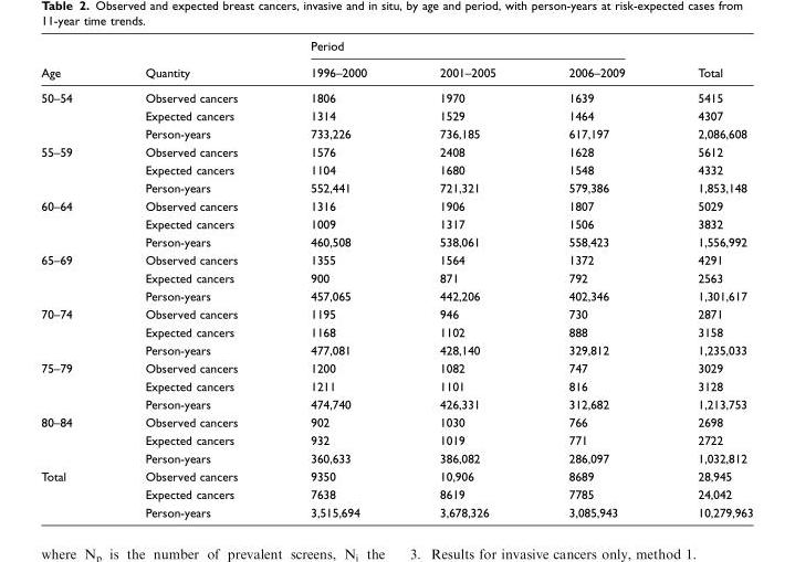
<table><thead><tr><td rowspan="2">Age</td><td rowspan="2">Quantity</td><td colspan="3">Period</td><td rowspan="2">Total</td></tr><tr><td>1996–2000</td><td>2001–2005</td><td>2006–2009</td></tr></thead><tbody><tr><td rowspan="3">50–54</td><td>Observed cancers</td><td>1806</td><td>1970</td><td>1639</td><td>5415</td></tr><tr><td>Expected cancers</td><td>1314</td><td>1529</td><td>1464</td><td>4307</td></tr><tr><td>Person-years</td><td>733,226</td><td>736,185</td><td>617,197</td><td>2,086,608</td></tr><tr><td rowspan="3">55–59</td><td>Observed cancers</td><td>1576</td><td>2408</td><td>1628</td><td>5612</td></tr><tr><td>Expected cancers</td><td>1104</td><td>1680</td><td>1548</td><td>4332</td></tr><tr><td>Person-years</td><td>552,441</td><td>721,321</td><td>579,386</td><td>1,853,148</td></tr><tr><td rowspan="3">60–64</td><td>Observed cancers</td><td>1316</td><td>1906</td><td>1807</td><td>5029</td></tr><tr><td>Expected cancers</td><td>1009</td><td>1317</td><td>1506</td><td>3832</td></tr><tr><td>Person-years</td><td>460,508</td><td>538,061</td><td>558,423</td><td>1,556,992</td></tr><tr><td rowspan="3">65–69</td><td>Observed cancers</td><td>1355</td><td>1564</td><td>1372</td><td>4291</td></tr><tr><td>Expected cancers</td><td>900</td><td>871</td><td>792</td><td>2563</td></tr><tr><td>Person-years</td><td>457,065</td><td>442,206</td><td>402,346</td><td>1,301,617</td></tr><tr><td rowspan="3">70–74</td><td>Observed cancers</td><td>1195</td><td>946</td><td>730</td><td>2871</td></tr><tr><td>Expected cancers</td><td>1168</td><td>1102</td><td>888</td><td>3158</td></tr><tr><td>Person-years</td><td>477,081</td><td>428,140</td><td>329,812</td><td>1,235,033</td></tr><tr><td rowspan="3">75–79</td><td>Observed cancers</td><td>1200</td><td>1082</td><td>747</td><td>3029</td></tr><tr><td>Expected cancers</td><td>1211</td><td>1101</td><td>816</td><td>3128</td></tr><tr><td>Person-years</td><td>474,740</td><td>426,331</td><td>312,682</td><td>1,213,753</td></tr><tr><td rowspan="3">80–84</td><td>Observed cancers</td><td>902</td><td>1030</td><td>766</td><td>2698</td></tr><tr><td>Expected cancers</td><td>932</td><td>1019</td><td>771</td><td>2722</td></tr><tr><td>Person-years</td><td>360,633</td><td>386,082</td><td>286,097</td><td>1,032,812</td></tr><tr><td rowspan="3">Total</td><td>Observed cancers</td><td>9350</td><td>10,906</td><td>8689</td><td>28,945</td></tr><tr><td>Expected cancers</td><td>7638</td><td>8619</td><td>7785</td><td>24,042</td></tr><tr><td>Person-years</td><td>3,515,694</td><td>3,678,326</td><td>3,085,943</td><td>10,279,963</td></tr></tbody></table>